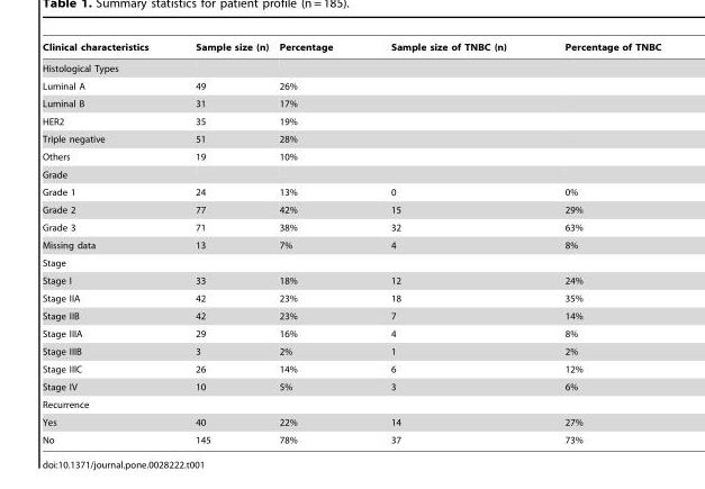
<table><thead><tr><td>Clinical characteristics</td><td>Sample size (n)</td><td>Percentage</td><td>Sample size of TNBC (n)</td><td>Percentage of TNBC</td></tr></thead><tbody><tr><td colspan="5">Histological Types</td></tr><tr><td>Luminal A</td><td>49</td><td>26%</td><td></td><td></td></tr><tr><td>Luminal B</td><td>31</td><td>17%</td><td></td><td></td></tr><tr><td>HER2</td><td>35</td><td>19%</td><td></td><td></td></tr><tr><td>Triple negative</td><td>51</td><td>28%</td><td></td><td></td></tr><tr><td>Others</td><td>19</td><td>10%</td><td></td><td></td></tr><tr><td colspan="5">Grade</td></tr><tr><td>Grade 1</td><td>24</td><td>13%</td><td>0</td><td>0%</td></tr><tr><td>Grade 2</td><td>77</td><td>42%</td><td>15</td><td>29%</td></tr><tr><td>Grade 3</td><td>71</td><td>38%</td><td>32</td><td>63%</td></tr><tr><td>Missing data</td><td>13</td><td>7%</td><td>4</td><td>8%</td></tr><tr><td colspan="5">Stage</td></tr><tr><td>Stage I</td><td>33</td><td>18%</td><td>12</td><td>24%</td></tr><tr><td>Stage IIA</td><td>42</td><td>23%</td><td>18</td><td>35%</td></tr><tr><td>Stage IIB</td><td>42</td><td>23%</td><td>7</td><td>14%</td></tr><tr><td>Stage IIIA</td><td>29</td><td>16%</td><td>4</td><td>8%</td></tr><tr><td>Stage IIIB</td><td>3</td><td>2%</td><td>1</td><td>2%</td></tr><tr><td>Stage IIIC</td><td>26</td><td>14%</td><td>6</td><td>12%</td></tr><tr><td>Stage IV</td><td>10</td><td>5%</td><td>3</td><td>6%</td></tr><tr><td colspan="5">Recurrence</td></tr><tr><td>Yes</td><td>40</td><td>22%</td><td>14</td><td>27%</td></tr><tr><td>No</td><td>145</td><td>78%</td><td>37</td><td>73%</td></tr></tbody></table>